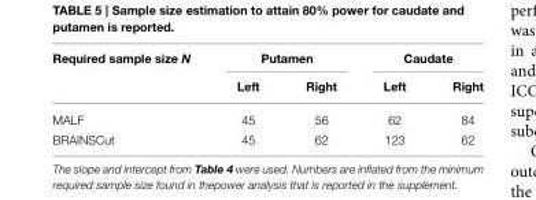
<table><thead><tr><td rowspan="2">Required sample size N</td><td colspan="2">Putamen</td><td colspan="2">Caudate</td></tr><tr><td>Left</td><td>Right</td><td>Left</td><td>Right</td></tr></thead><tbody><tr><td>MALF</td><td>45</td><td>56</td><td>62</td><td>84</td></tr><tr><td>BRAINSCut</td><td>45</td><td>62</td><td>123</td><td>62</td></tr></tbody></table>